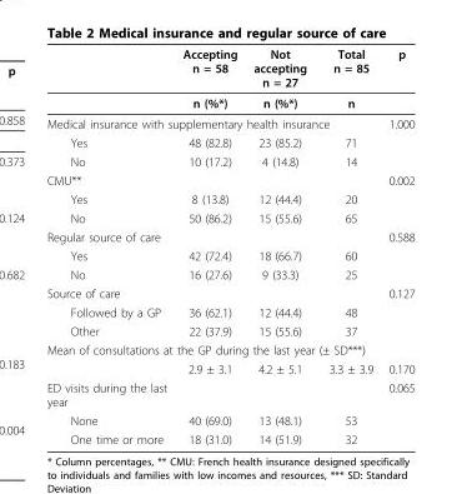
<table><thead><tr><td></td><td>Accepting n = 58</td><td>Not accepting n = 27</td><td>Total n = 85</td><td>p</td></tr></thead><tbody><tr><td></td><td>n (%*)</td><td>n (%*)</td><td>n</td><td></td></tr><tr><td colspan="4">Medical insurance with supplementary health insurance</td><td>1.000</td></tr><tr><td>Yes</td><td>48 (82.8)</td><td>23 (85.2)</td><td>71</td><td></td></tr><tr><td>No</td><td>10 (17.2)</td><td>4 (14.8)</td><td>14</td><td></td></tr><tr><td>CMU**</td><td></td><td></td><td></td><td>0.002</td></tr><tr><td>Yes</td><td>8 (13.8)</td><td>12 (44.4)</td><td>20</td><td></td></tr><tr><td>No</td><td>50 (86.2)</td><td>15 (55.6)</td><td>65</td><td></td></tr><tr><td>Regular source of care</td><td></td><td></td><td></td><td>0.588</td></tr><tr><td>Yes</td><td>42 (72.4)</td><td>18 (66.7)</td><td>60</td><td></td></tr><tr><td>No</td><td>16 (27.6)</td><td>9 (33.3)</td><td>25</td><td></td></tr><tr><td>Source of care</td><td></td><td></td><td></td><td>0.127</td></tr><tr><td>Followed by a GP</td><td>36 (62.1)</td><td>12 (44.4)</td><td>48</td><td></td></tr><tr><td>Other</td><td>22 (37.9)</td><td>15 (55.6)</td><td>37</td><td></td></tr><tr><td colspan="5">Mean of consultations at the GP during the last year (± SD***)</td></tr><tr><td></td><td>2.9 ± 3.1</td><td>4.2 ± 5.1</td><td>3.3 ± 3.9</td><td>0.170</td></tr><tr><td>ED visits during the last year</td><td></td><td></td><td></td><td>0.065</td></tr><tr><td>None</td><td>40 (69.0)</td><td>13 (48.1)</td><td>53</td><td></td></tr><tr><td>One time or more</td><td>18 (31.0)</td><td>14 (51.9)</td><td>32</td><td></td></tr></tbody></table>